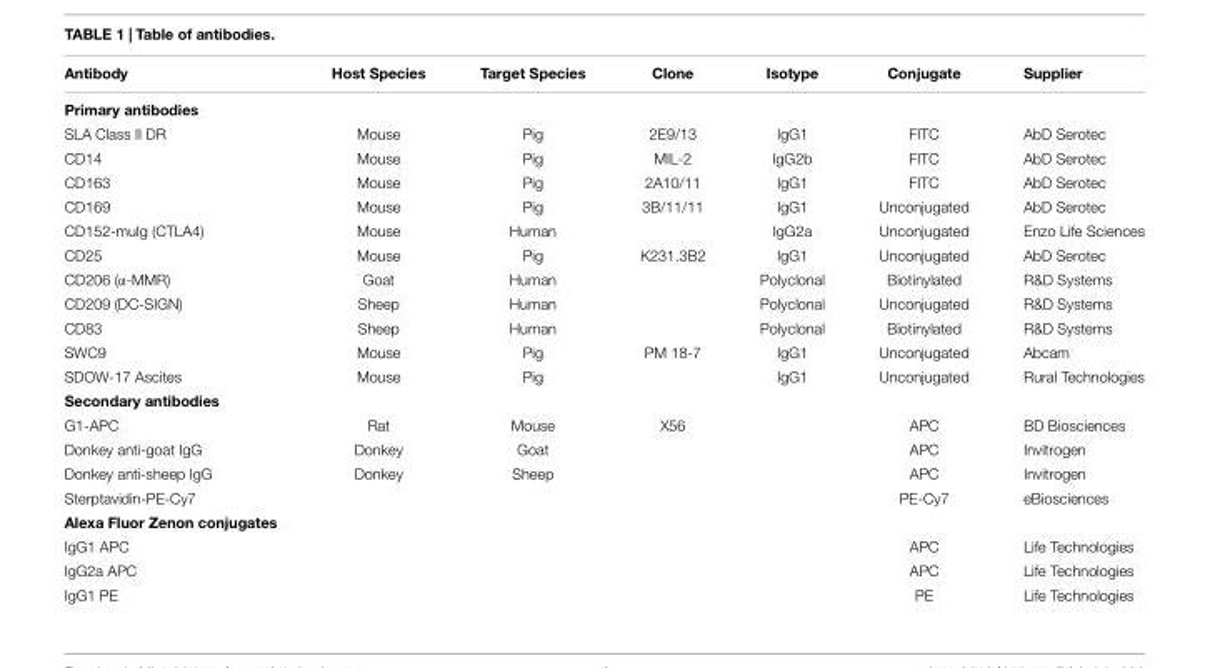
<table><thead><tr><td>Antibody</td><td>Host Species</td><td>Target Species</td><td>Clone</td><td>Isotype</td><td>Conjugate</td><td>Supplier</td></tr></thead><tbody><tr><td colspan="7">Primary antibodies</td></tr><tr><td>SLA Class II DR</td><td>Mouse</td><td>Pig</td><td>2E9/13</td><td>IgG1</td><td>FITC</td><td>AbD Serotec</td></tr><tr><td>CD14</td><td>Mouse</td><td>Pig</td><td>MIL-2</td><td>IgG2b</td><td>FITC</td><td>AbD Serotec</td></tr><tr><td>CD163</td><td>Mouse</td><td>Pig</td><td>2A10/11</td><td>IgG1</td><td>FITC</td><td>AbD Serotec</td></tr><tr><td>CD169</td><td>Mouse</td><td>Pig</td><td>3B/11/11</td><td>IgG1</td><td>Unconjugated</td><td>AbD Serotec</td></tr><tr><td>CD152-muIg (CTLA4)</td><td>Mouse</td><td>Human</td><td></td><td>IgG2a</td><td>Unconjugated</td><td>Enzo Life Sciences</td></tr><tr><td>CD25</td><td>Mouse</td><td>Pig</td><td>K231.3B2</td><td>IgG1</td><td>Unconjugated</td><td>AbD Serotec</td></tr><tr><td>CD206 (α-MMR)</td><td>Goat</td><td>Human</td><td></td><td>Polyclonal</td><td>Biotinylated</td><td>R&amp;D Systems</td></tr><tr><td>CD209 (DC-SIGN)</td><td>Sheep</td><td>Human</td><td></td><td>Polyclonal</td><td>Unconjugated</td><td>R&amp;D Systems</td></tr><tr><td>CD83</td><td>Sheep</td><td>Human</td><td></td><td>Polyclonal</td><td>Biotinylated</td><td>R&amp;D Systems</td></tr><tr><td>SWC9</td><td>Mouse</td><td>Pig</td><td>PM 18-7</td><td>IgG1</td><td>Unconjugated</td><td>Abcam</td></tr><tr><td>SDOW-17 Ascites</td><td>Mouse</td><td>Pig</td><td></td><td>IgG1</td><td>Unconjugated</td><td>Rural Technologies</td></tr><tr><td colspan="7">Secondary antibodies</td></tr><tr><td>G1-APC</td><td>Rat</td><td>Mouse</td><td>X56</td><td></td><td>APC</td><td>BD Biosciences</td></tr><tr><td>Donkey anti-goat IgG</td><td>Donkey</td><td>Goat</td><td></td><td></td><td>APC</td><td>Invitrogen</td></tr><tr><td>Donkey anti-sheep IgG</td><td>Donkey</td><td>Sheep</td><td></td><td></td><td>APC</td><td>Invitrogen</td></tr><tr><td>Sterptavidin-PE-Cy7</td><td></td><td></td><td></td><td></td><td>PE-Cy7</td><td>eBiosciences</td></tr><tr><td colspan="7">Alexa Fluor Zenon conjugates</td></tr><tr><td>IgG1 APC</td><td></td><td></td><td></td><td></td><td>APC</td><td>Life Technologies</td></tr><tr><td>IgG2a APC</td><td></td><td></td><td></td><td></td><td>APC</td><td>Life Technologies</td></tr><tr><td>IgG1 PE</td><td></td><td></td><td></td><td></td><td>PE</td><td>Life Technologies</td></tr></tbody></table>